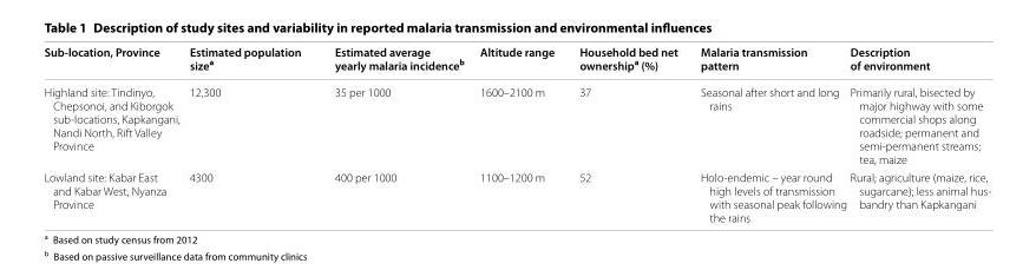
<table><thead><tr><td>Sub-location, Province</td><td>Estimated population size<sup>a</sup></td><td>Estimated average yearly malaria incidence<sup>b</sup></td><td>Altitude range</td><td>Household bed net ownership<sup>a</sup> (%)</td><td>Malaria transmission pattern</td><td>Description of environment</td></tr></thead><tbody><tr><td>Highland site: Tindinyo, Chepsonoi, and Kiborgok sub-locations, Kapkangani, Nandi North, Rift Valley Province</td><td>12,300</td><td>35 per 1000</td><td>1600–2100 m</td><td>37</td><td>Seasonal after short and long rains</td><td>Primarily rural, bisected by major highway with some commercial shops along roadside; permanent and semi-permanent streams; tea, maize</td></tr><tr><td>Lowland site: Kabar East and Kabar West, Nyanza Province</td><td>4300</td><td>400 per 1000</td><td>1100–1200 m</td><td>52</td><td>Holo-endemic – year round high levels of transmission with seasonal peak following the rains</td><td>Rural; agriculture (maize, rice, sugarcane); less animal hus- bandry than Kapkangani</td></tr></tbody></table>